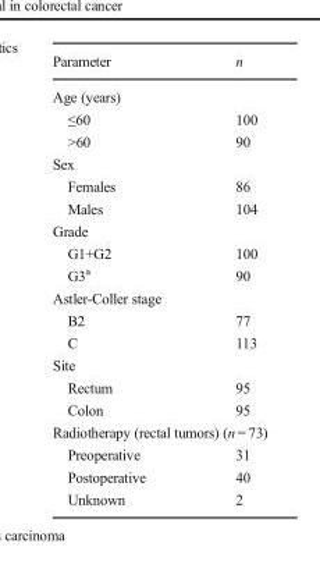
<table><thead><tr><td>Parameter</td><td>n</td></tr></thead><tbody><tr><td colspan="2">Age (years)</td></tr><tr><td>≤60</td><td>100</td></tr><tr><td>&gt;60</td><td>90</td></tr><tr><td colspan="2">Sex</td></tr><tr><td>Females</td><td>86</td></tr><tr><td>Males</td><td>104</td></tr><tr><td colspan="2">Grade</td></tr><tr><td>G1+G2</td><td>100</td></tr><tr><td>G3<sup>a</sup></td><td>90</td></tr><tr><td colspan="2">Astler-Coller stage</td></tr><tr><td>B2</td><td>77</td></tr><tr><td>C</td><td>113</td></tr><tr><td colspan="2">Site</td></tr><tr><td>Rectum</td><td>95</td></tr><tr><td>Colon</td><td>95</td></tr><tr><td colspan="2">Radiotherapy (rectal tumors) (n = 73)</td></tr><tr><td>Preoperative</td><td>31</td></tr><tr><td>Postoperative</td><td>40</td></tr><tr><td>Unknown</td><td>2</td></tr></tbody></table>